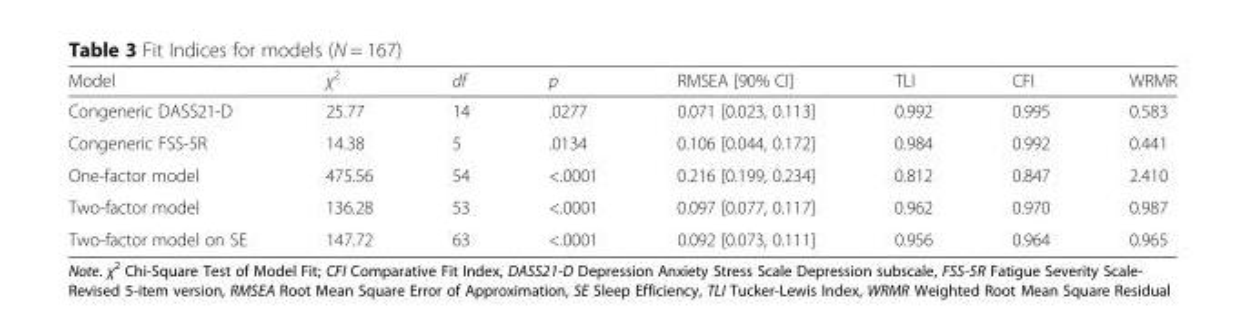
<table><thead><tr><td>Model</td><td>χ<sup>2</sup></td><td>df</td><td>p</td><td>RMSEA [90% CI]</td><td>TLI</td><td>CFI</td><td>WRMR</td></tr></thead><tbody><tr><td>Congeneric DASS21-D</td><td>25.77</td><td>14</td><td>.0277</td><td>0.071 [0.023, 0.113]</td><td>0.992</td><td>0.995</td><td>0.583</td></tr><tr><td>Congeneric FSS-5R</td><td>14.38</td><td>5</td><td>.0134</td><td>0.106 [0.044, 0.172]</td><td>0.984</td><td>0.992</td><td>0.441</td></tr><tr><td>One-factor model</td><td>475.56</td><td>54</td><td>&lt;.0001</td><td>0.216 [0.199, 0.234]</td><td>0.812</td><td>0.847</td><td>2.410</td></tr><tr><td>Two-factor model</td><td>136.28</td><td>53</td><td>&lt;.0001</td><td>0.097 [0.077, 0.117]</td><td>0.962</td><td>0.970</td><td>0.987</td></tr><tr><td>Two-factor model on SE</td><td>147.72</td><td>63</td><td>&lt;.0001</td><td>0.092 [0.073, 0.111]</td><td>0.956</td><td>0.964</td><td>0.965</td></tr></tbody></table>